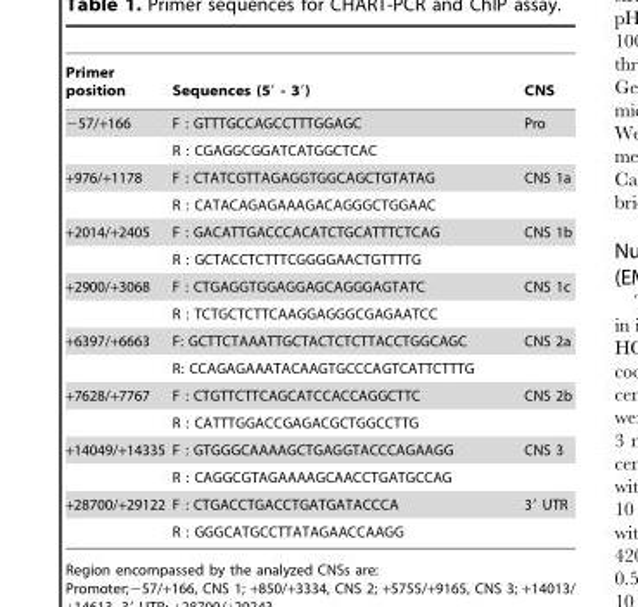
<table><thead><tr><td>Primer position</td><td>Sequences (5′ - 3′)</td><td>CNS</td></tr></thead><tbody><tr><td rowspan="2">−57/+166</td><td>F : GTTTGCCAGCCTTTGGAGC</td><td>Pro</td></tr><tr><td>R : CGAGGCGGATCATGGCTCAC</td><td></td></tr><tr><td rowspan="2">+976/+1178</td><td>F : CTATCGTTAGAGGTGGCAGCTGTATAG</td><td>CNS 1a</td></tr><tr><td>R : CATACAGAGAAAGACAGGGCTGGAAC</td><td></td></tr><tr><td rowspan="2">+2014/+2405</td><td>F : GACATTGACCCACATCTGCATTTCTCAG</td><td>CNS 1b</td></tr><tr><td>R : GCTACCTCTTTCGGGGAACTGTTTTG</td><td></td></tr><tr><td rowspan="2">+2900/+3068</td><td>F : CTGAGGTGGAGGAGCAGGGAGTATC</td><td>CNS 1c</td></tr><tr><td>R : TCTGCTCTTCAAGGAGGGCGAGAATCC</td><td></td></tr><tr><td rowspan="2">+6397/+6663</td><td>F: GCTTCTAAATTGCTACTCTCTTACCTGGCAGC</td><td>CNS 2a</td></tr><tr><td>R: CCAGAGAAATACAAGTGCCCAGTCATTCTTTG</td><td></td></tr><tr><td rowspan="2">+7628/+7767</td><td>F : CTGTTCTTCAGCATCCACCAGGCTTC</td><td>CNS 2b</td></tr><tr><td>R : CATTTGGACCGAGACGCTGGCCTTG</td><td></td></tr><tr><td rowspan="2">+14049/+14335</td><td>F : GTGGGCAAAAGCTGAGGTACCCAGAAGG</td><td>CNS 3</td></tr><tr><td>R : CAGGCGTAGAAAAGCAACCTGATGCCAG</td><td></td></tr><tr><td rowspan="2">+28700/+29122</td><td>F : CTGACCTGACCTGATGATACCCA</td><td>3′ UTR</td></tr><tr><td>R : GGGCATGCCTTATAGAACCAAGG</td><td></td></tr></tbody></table>